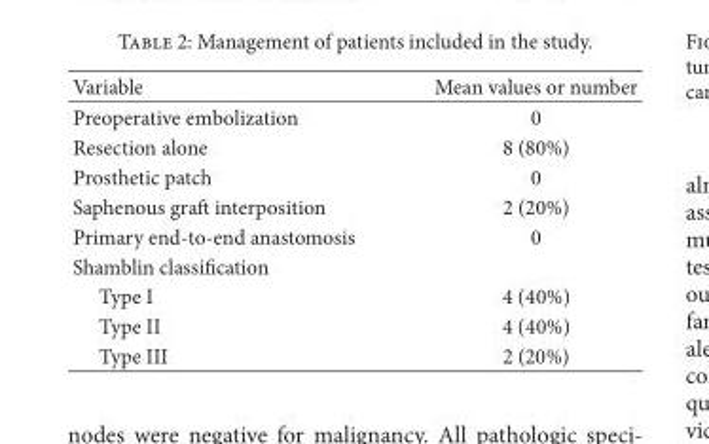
<table><thead><tr><td>Variable</td><td>Mean values or number</td></tr></thead><tbody><tr><td>Preoperative embolization</td><td>0</td></tr><tr><td>Resection alone</td><td>8 (80%)</td></tr><tr><td>Prosthetic patch</td><td>0</td></tr><tr><td>Saphenous graft interposition</td><td>2 (20%)</td></tr><tr><td>Primary end-to-end anastomosis</td><td>0</td></tr><tr><td colspan="2">Shamblin classification</td></tr><tr><td>Type I</td><td>4 (40%)</td></tr><tr><td>Type II</td><td>4 (40%)</td></tr><tr><td>Type III</td><td>2 (20%)</td></tr></tbody></table>